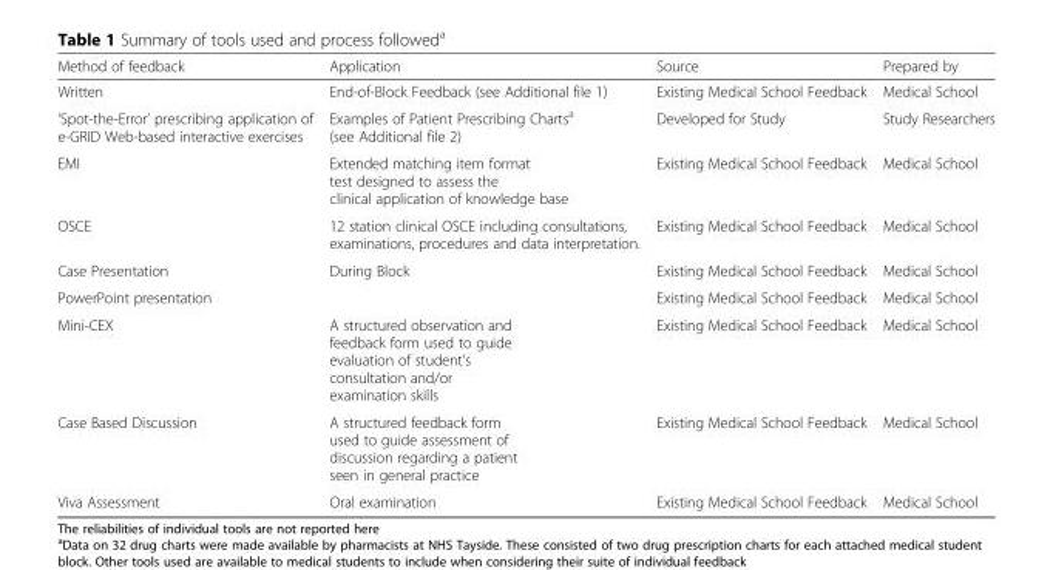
<table><thead><tr><td>Method of feedback</td><td>Application</td><td>Source</td><td>Prepared by</td></tr></thead><tbody><tr><td>Written</td><td>End-of-Block Feedback (see Additional file 1)</td><td>Existing Medical School Feedback</td><td>Medical School</td></tr><tr><td>‘Spot-the-Error’ prescribing application of e-GRID Web-based interactive exercises</td><td>Examples of Patient Prescribing Charts<sup>a</sup> (see Additional file 2)</td><td>Developed for Study</td><td>Study Researchers</td></tr><tr><td>EMI</td><td>Extended matching item format test designed to assess the clinical application of knowledge base</td><td>Existing Medical School Feedback</td><td>Medical School</td></tr><tr><td>OSCE</td><td>12 station clinical OSCE including consultations, examinations, procedures and data interpretation.</td><td>Existing Medical School Feedback</td><td>Medical School</td></tr><tr><td>Case Presentation</td><td>During Block</td><td>Existing Medical School Feedback</td><td>Medical School</td></tr><tr><td>PowerPoint presentation</td><td></td><td>Existing Medical School Feedback</td><td>Medical School</td></tr><tr><td>Mini-CEX</td><td>A structured observation and feedback form used to guide evaluation of student’s consultation and/or examination skills</td><td>Existing Medical School Feedback</td><td>Medical School</td></tr><tr><td>Case Based Discussion</td><td>A structured feedback form used to guide assessment of discussion regarding a patient seen in general practice</td><td>Existing Medical School Feedback</td><td>Medical School</td></tr><tr><td>Viva Assessment</td><td>Oral examination</td><td>Existing Medical School Feedback</td><td>Medical School</td></tr></tbody></table>